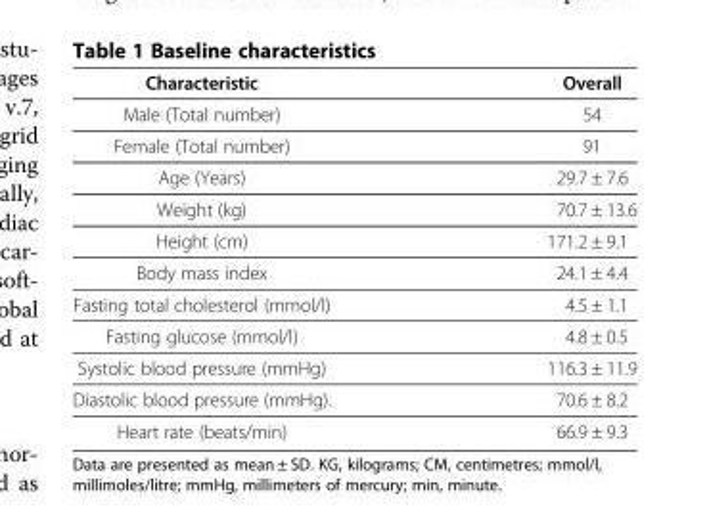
<table><thead><tr><td>Characteristic</td><td>Overall</td></tr></thead><tbody><tr><td>Male (Total number)</td><td>54</td></tr><tr><td>Female (Total number)</td><td>91</td></tr><tr><td>Age (Years)</td><td>29.7 ± 7.6</td></tr><tr><td>Weight (kg)</td><td>70.7 ± 13.6</td></tr><tr><td>Height (cm)</td><td>171.2 ± 9.1</td></tr><tr><td>Body mass index</td><td>24.1 ± 4.4</td></tr><tr><td>Fasting total cholesterol (mmol/l)</td><td>4.5 ± 1.1</td></tr><tr><td>Fasting glucose (mmol/l)</td><td>4.8 ± 0.5</td></tr><tr><td>Systolic blood pressure (mmHg)</td><td>116.3 ± 11.9</td></tr><tr><td>Diastolic blood pressure (mmHg).</td><td>70.6 ± 8.2</td></tr><tr><td>Heart rate (beats/min)</td><td>66.9 ± 9.3</td></tr></tbody></table>